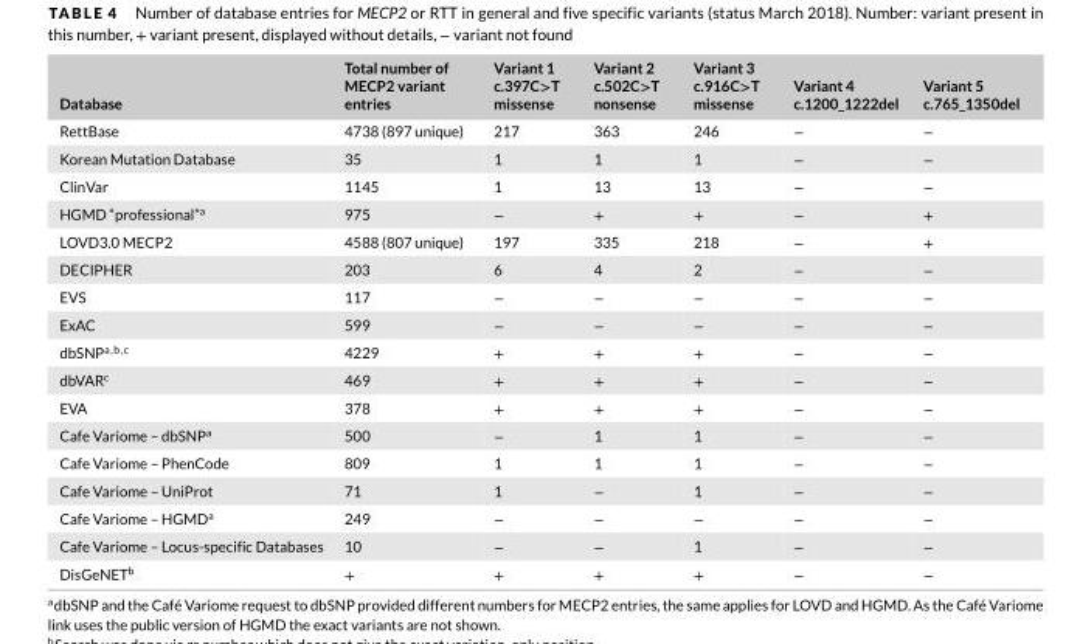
<table><thead><tr><td>Database</td><td>Total number of MECP2 variant entries</td><td>Variant 1 c.397C&gt;T missense</td><td>Variant 2 c.502C&gt;T nonsense</td><td>Variant 3 c.916C&gt;T missense</td><td>Variant 4 c.1200_1222del</td><td>Variant 5 c.765_1350del</td></tr></thead><tbody><tr><td>RettBase</td><td>4738 (897 unique)</td><td>217</td><td>363</td><td>246</td><td>−</td><td>−</td></tr><tr><td>Korean Mutation Database</td><td>35</td><td>1</td><td>1</td><td>1</td><td>−</td><td>−</td></tr><tr><td>ClinVar</td><td>1145</td><td>1</td><td>13</td><td>13</td><td>−</td><td>−</td></tr><tr><td>HGMD “professional”<sup>a</sup></td><td>975</td><td>−</td><td>+</td><td>+</td><td>−</td><td>+</td></tr><tr><td>LOVD3.0 MECP2</td><td>4588 (807 unique)</td><td>197</td><td>335</td><td>218</td><td>−</td><td>+</td></tr><tr><td>DECIPHER</td><td>203</td><td>6</td><td>4</td><td>2</td><td>−</td><td>−</td></tr><tr><td>EVS</td><td>117</td><td>−</td><td>−</td><td>−</td><td>−</td><td>−</td></tr><tr><td>ExAC</td><td>599</td><td>−</td><td>−</td><td>−</td><td>−</td><td>−</td></tr><tr><td>dbSNP<sup>a,</sup>b<sup>,</sup>c</td><td>4229</td><td>+</td><td>+</td><td>+</td><td>−</td><td>−</td></tr><tr><td>dbVAR<sup>c</sup></td><td>469</td><td>+</td><td>+</td><td>+</td><td>−</td><td>−</td></tr><tr><td>EVA</td><td>378</td><td>+</td><td>+</td><td>+</td><td>−</td><td>−</td></tr><tr><td>Cafe Variome – dbSNP<sup>a</sup></td><td>500</td><td>−</td><td>1</td><td>1</td><td>−</td><td>−</td></tr><tr><td>Cafe Variome – PhenCode</td><td>809</td><td>1</td><td>1</td><td>1</td><td>−</td><td>−</td></tr><tr><td>Cafe Variome – UniProt</td><td>71</td><td>1</td><td>−</td><td>1</td><td>−</td><td>−</td></tr><tr><td>Cafe Variome – HGMD<sup>a</sup></td><td>249</td><td>−</td><td>−</td><td>−</td><td>−</td><td>−</td></tr><tr><td>Cafe Variome – Locus-specific Databases</td><td>10</td><td>−</td><td>−</td><td>1</td><td>−</td><td>−</td></tr><tr><td>DisGeNET<sup>b</sup></td><td>+</td><td>+</td><td>+</td><td>+</td><td>−</td><td>−</td></tr></tbody></table>